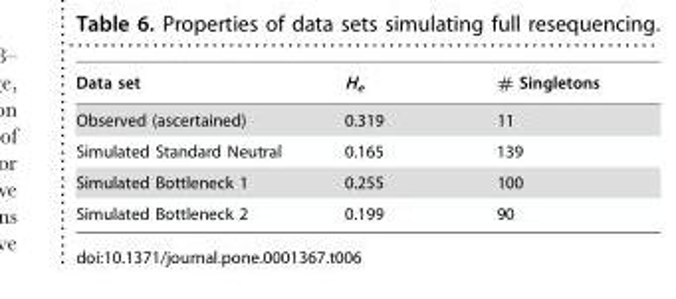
<table><thead><tr><td>Data set</td><td>H<sub>e</sub></td><td># Singletons</td></tr></thead><tbody><tr><td>Observed (ascertained)</td><td>0.319</td><td>11</td></tr><tr><td>Simulated Standard Neutral</td><td>0.165</td><td>139</td></tr><tr><td>Simulated Bottleneck 1</td><td>0.255</td><td>100</td></tr><tr><td>Simulated Bottleneck 2</td><td>0.199</td><td>90</td></tr></tbody></table>